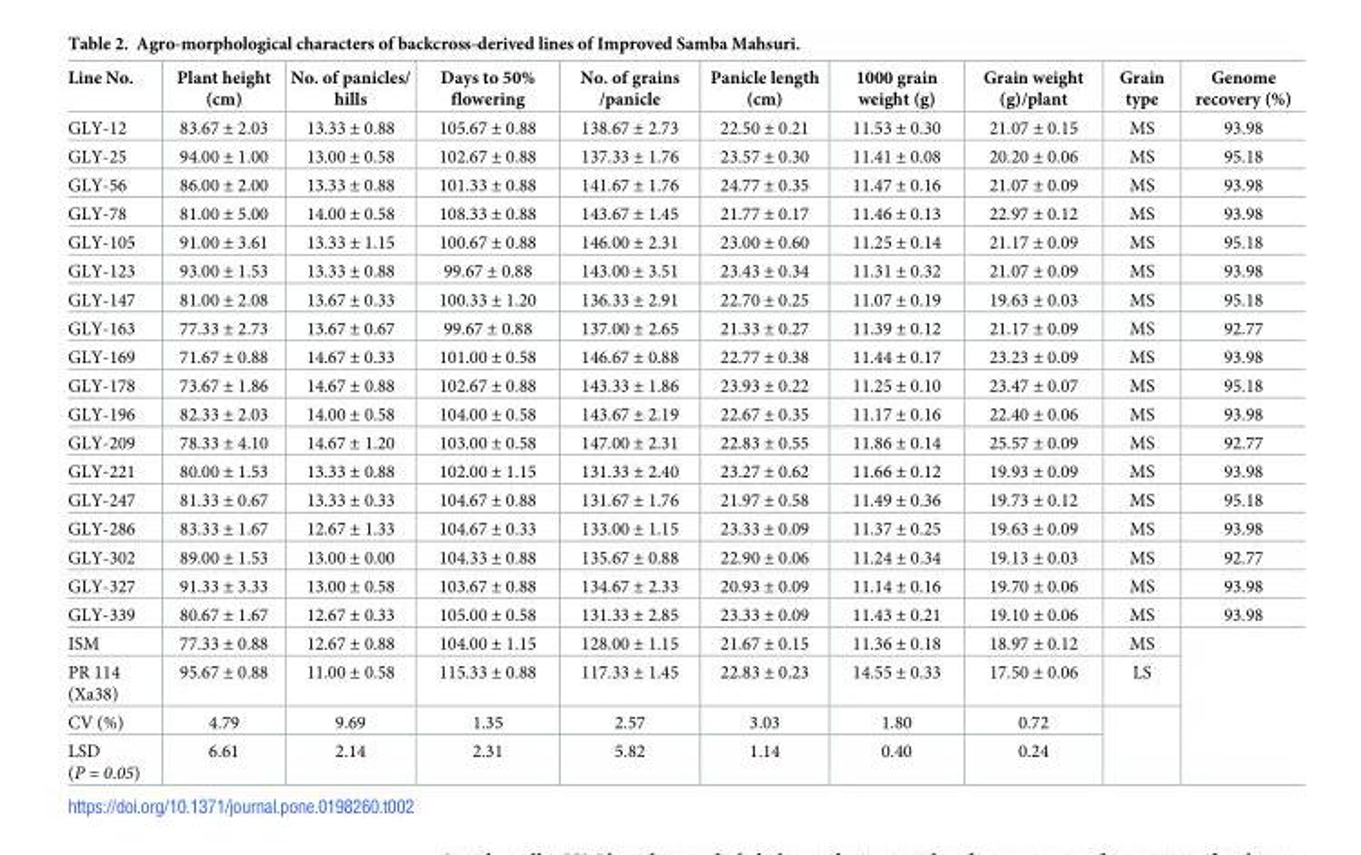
<table><thead><tr><td>Line No.</td><td>Plant height (cm)</td><td>No. of panicles/ hills</td><td>Days to 50% flowering</td><td>No. of grains /panicle</td><td>Panicle length (cm)</td><td>1000 grain weight (g)</td><td>Grain weight (g)/plant</td><td>Grain type</td><td>Genome recovery (%)</td></tr></thead><tbody><tr><td>GLY-12</td><td>83.67 ± 2.03</td><td>13.33 ± 0.88</td><td>105.67 ± 0.88</td><td>138.67 ± 2.73</td><td>22.50 ± 0.21</td><td>11.53 ± 0.30</td><td>21.07 ± 0.15</td><td>MS</td><td>93.98</td></tr><tr><td>GLY-25</td><td>94.00 ± 1.00</td><td>13.00 ± 0.58</td><td>102.67 ± 0.88</td><td>137.33 ± 1.76</td><td>23.57 ± 0.30</td><td>11.41 ± 0.08</td><td>20.20 ± 0.06</td><td>MS</td><td>95.18</td></tr><tr><td>GLY-56</td><td>86.00 ± 2.00</td><td>13.33 ± 0.88</td><td>101.33 ± 0.88</td><td>141.67 ± 1.76</td><td>24.77 ± 0.35</td><td>11.47 ± 0.16</td><td>21.07 ± 0.09</td><td>MS</td><td>93.98</td></tr><tr><td>GLY-78</td><td>81.00 ± 5.00</td><td>14.00 ± 0.58</td><td>108.33 ± 0.88</td><td>143.67 ± 1.45</td><td>21.77 ± 0.17</td><td>11.46 ± 0.13</td><td>22.97 ± 0.12</td><td>MS</td><td>93.98</td></tr><tr><td>GLY-105</td><td>91.00 ± 3.61</td><td>13.33 ± 1.15</td><td>100.67 ± 0.88</td><td>146.00 ± 2.31</td><td>23.00 ± 0.60</td><td>11.25 ± 0.14</td><td>21.17 ± 0.09</td><td>MS</td><td>95.18</td></tr><tr><td>GLY-123</td><td>93.00 ± 1.53</td><td>13.33 ± 0.88</td><td>99.67 ± 0.88</td><td>143.00 ± 3.51</td><td>23.43 ± 0.34</td><td>11.31 ± 0.32</td><td>21.07 ± 0.09</td><td>MS</td><td>93.98</td></tr><tr><td>GLY-147</td><td>81.00 ± 2.08</td><td>13.67 ± 0.33</td><td>100.33 ± 1.20</td><td>136.33 ± 2.91</td><td>22.70 ± 0.25</td><td>11.07 ± 0.19</td><td>19.63 ± 0.03</td><td>MS</td><td>95.18</td></tr><tr><td>GLY-163</td><td>77.33 ± 2.73</td><td>13.67 ± 0.67</td><td>99.67 ± 0.88</td><td>137.00 ± 2.65</td><td>21.33 ± 0.27</td><td>11.39 ± 0.12</td><td>21.17 ± 0.09</td><td>MS</td><td>92.77</td></tr><tr><td>GLY-169</td><td>71.67 ± 0.88</td><td>14.67 ± 0.33</td><td>101.00 ± 0.58</td><td>146.67 ± 0.88</td><td>22.77 ± 0.38</td><td>11.44 ± 0.17</td><td>23.23 ± 0.09</td><td>MS</td><td>93.98</td></tr><tr><td>GLY-178</td><td>73.67 ± 1.86</td><td>14.67 ± 0.88</td><td>102.67 ± 0.88</td><td>143.33 ± 1.86</td><td>23.93 ± 0.22</td><td>11.25 ± 0.10</td><td>23.47 ± 0.07</td><td>MS</td><td>95.18</td></tr><tr><td>GLY-196</td><td>82.33 ± 2.03</td><td>14.00 ± 0.58</td><td>104.00 ± 0.58</td><td>143.67 ± 2.19</td><td>22.67 ± 0.35</td><td>11.17 ± 0.16</td><td>22.40 ± 0.06</td><td>MS</td><td>93.98</td></tr><tr><td>GLY-209</td><td>78.33 ± 4.10</td><td>14.67 ± 1.20</td><td>103.00 ± 0.58</td><td>147.00 ± 2.31</td><td>22.83 ± 0.55</td><td>11.86 ± 0.14</td><td>25.57 ± 0.09</td><td>MS</td><td>92.77</td></tr><tr><td>GLY-221</td><td>80.00 ± 1.53</td><td>13.33 ± 0.88</td><td>102.00 ± 1.15</td><td>131.33 ± 2.40</td><td>23.27 ± 0.62</td><td>11.66 ± 0.12</td><td>19.93 ± 0.09</td><td>MS</td><td>93.98</td></tr><tr><td>GLY-247</td><td>81.33 ± 0.67</td><td>13.33 ± 0.33</td><td>104.67 ± 0.88</td><td>131.67 ± 1.76</td><td>21.97 ± 0.58</td><td>11.49 ± 0.36</td><td>19.73 ± 0.12</td><td>MS</td><td>95.18</td></tr><tr><td>GLY-286</td><td>83.33 ± 1.67</td><td>12.67 ± 1.33</td><td>104.67 ± 0.33</td><td>133.00 ± 1.15</td><td>23.33 ± 0.09</td><td>11.37 ± 0.25</td><td>19.63 ± 0.09</td><td>MS</td><td>93.98</td></tr><tr><td>GLY-302</td><td>89.00 ± 1.53</td><td>13.00 ± 0.00</td><td>104.33 ± 0.88</td><td>135.67 ± 0.88</td><td>22.90 ± 0.06</td><td>11.24 ± 0.34</td><td>19.13 ± 0.03</td><td>MS</td><td>92.77</td></tr><tr><td>GLY-327</td><td>91.33 ± 3.33</td><td>13.00 ± 0.58</td><td>103.67 ± 0.88</td><td>134.67 ± 2.33</td><td>20.93 ± 0.09</td><td>11.14 ± 0.16</td><td>19.70 ± 0.06</td><td>MS</td><td>93.98</td></tr><tr><td>GLY-339</td><td>80.67 ± 1.67</td><td>12.67 ± 0.33</td><td>105.00 ± 0.58</td><td>131.33 ± 2.85</td><td>23.33 ± 0.09</td><td>11.43 ± 0.21</td><td>19.10 ± 0.06</td><td>MS</td><td>93.98</td></tr><tr><td>ISM</td><td>77.33 ± 0.88</td><td>12.67 ± 0.88</td><td>104.00 ± 1.15</td><td>128.00 ± 1.15</td><td>21.67 ± 0.15</td><td>11.36 ± 0.18</td><td>18.97 ± 0.12</td><td>MS</td><td rowspan="4"></td></tr><tr><td>PR 114 (Xa38)</td><td>95.67 ± 0.88</td><td>11.00 ± 0.58</td><td>115.33 ± 0.88</td><td>117.33 ± 1.45</td><td>22.83 ± 0.23</td><td>14.55 ± 0.33</td><td>17.50 ± 0.06</td><td>LS</td></tr><tr><td>CV (%)</td><td>4.79</td><td>9.69</td><td>1.35</td><td>2.57</td><td>3.03</td><td>1.80</td><td>0.72</td><td rowspan="2"></td></tr><tr><td>LSD (P = 0.05)</td><td>6.61</td><td>2.14</td><td>2.31</td><td>5.82</td><td>1.14</td><td>0.40</td><td>0.24</td></tr></tbody></table>